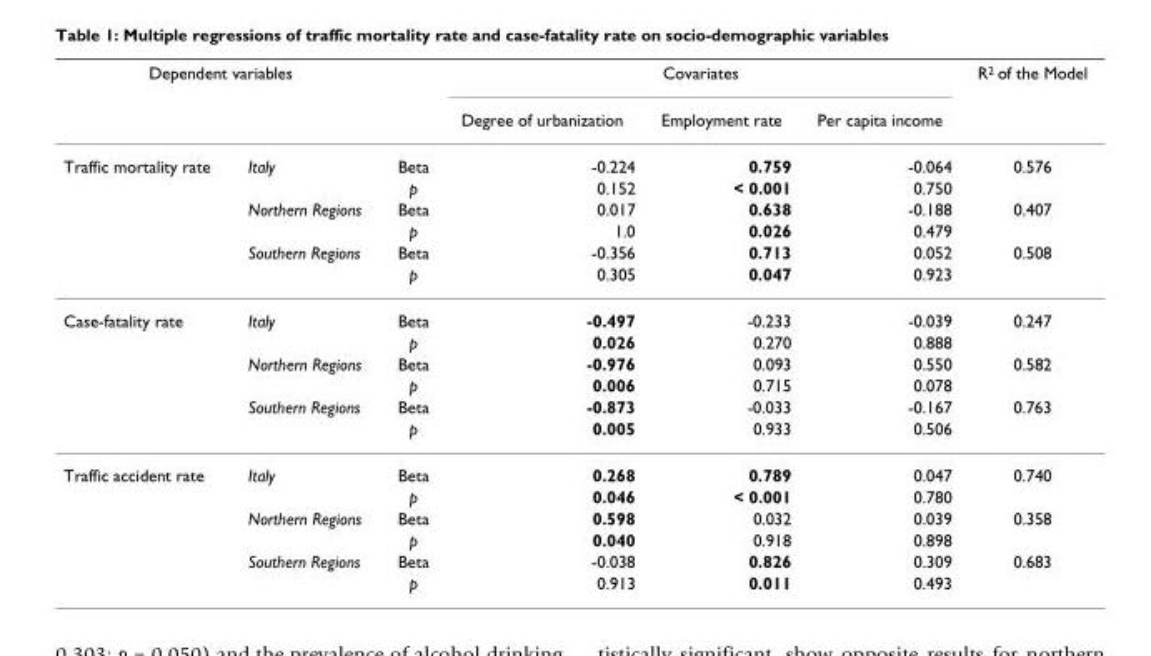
<table><thead><tr><td colspan="2">Dependent variables</td><td rowspan="2"></td><td colspan="3">Covariates</td><td rowspan="2">R<sup>2</sup> of the Model</td></tr><tr><td></td><td></td><td>Degree of urbanization</td><td>Employment rate</td><td>Per capita income</td></tr></thead><tbody><tr><td rowspan="6">Traffic mortality rate</td><td>Italy</td><td>Beta</td><td>-0.224</td><td>0.759</td><td>-0.064</td><td>0.576</td></tr><tr><td></td><td>p</td><td>0.152</td><td>&lt; 0.001</td><td>0.750</td><td></td></tr><tr><td>Northern Regions</td><td>Beta</td><td>0.017</td><td>0.638</td><td>-0.188</td><td>0.407</td></tr><tr><td></td><td>p</td><td>1.0</td><td>0.026</td><td>0.479</td><td></td></tr><tr><td>Southern Regions</td><td>Beta</td><td>-0.356</td><td>0.713</td><td>0.052</td><td>0.508</td></tr><tr><td></td><td>p</td><td>0.305</td><td>0.047</td><td>0.923</td><td></td></tr><tr><td rowspan="6">Case-fatality rate</td><td>Italy</td><td>Beta</td><td>-0.497</td><td>-0.233</td><td>-0.039</td><td>0.247</td></tr><tr><td></td><td>p</td><td>0.026</td><td>0.270</td><td>0.888</td><td></td></tr><tr><td>Northern Regions</td><td>Beta</td><td>-0.976</td><td>0.093</td><td>0.550</td><td>0.582</td></tr><tr><td></td><td>p</td><td>0.006</td><td>0.715</td><td>0.078</td><td></td></tr><tr><td>Southern Regions</td><td>Beta</td><td>-0.873</td><td>-0.033</td><td>-0.167</td><td>0.763</td></tr><tr><td></td><td>p</td><td>0.005</td><td>0.933</td><td>0.506</td><td></td></tr><tr><td rowspan="6">Traffic accident rate</td><td>Italy</td><td>Beta</td><td>0.268</td><td>0.789</td><td>0.047</td><td>0.740</td></tr><tr><td></td><td>p</td><td>0.046</td><td>&lt; 0.001</td><td>0.780</td><td></td></tr><tr><td>Northern Regions</td><td>Beta</td><td>0.598</td><td>0.032</td><td>0.039</td><td>0.358</td></tr><tr><td></td><td>p</td><td>0.040</td><td>0.918</td><td>0.898</td><td></td></tr><tr><td>Southern Regions</td><td>Beta</td><td>-0.038</td><td>0.826</td><td>0.309</td><td>0.683</td></tr><tr><td></td><td>p</td><td>0.913</td><td>0.011</td><td>0.493</td><td></td></tr></tbody></table>